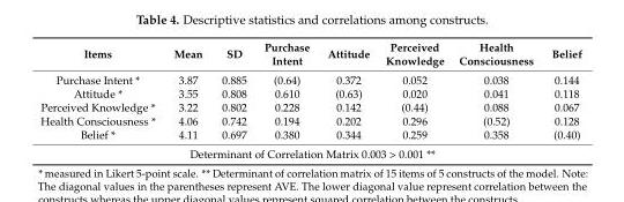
<table><thead><tr><td>Items</td><td>Mean</td><td>SD</td><td>Purchase Intent</td><td>Attitude</td><td>Perceived Knowledge</td><td>Health Consciousness</td><td>Belief</td></tr></thead><tbody><tr><td>Purchase Intent *</td><td>3.87</td><td>0.885</td><td>(0.64)</td><td>0.372</td><td>0.052</td><td>0.038</td><td>0.144</td></tr><tr><td>Attitude *</td><td>3.55</td><td>0.808</td><td>0.610</td><td>(0.63)</td><td>0.020</td><td>0.041</td><td>0.118</td></tr><tr><td>Perceived Knowledge *</td><td>3.22</td><td>0.802</td><td>0.228</td><td>0.142</td><td>(0.44)</td><td>0.088</td><td>0.067</td></tr><tr><td>Health Consciousness *</td><td>4.06</td><td>0.742</td><td>0.194</td><td>0.202</td><td>0.296</td><td>(0.52)</td><td>0.128</td></tr><tr><td>Belief *</td><td>4.11</td><td>0.697</td><td>0.380</td><td>0.344</td><td>0.259</td><td>0.358</td><td>(0.40)</td></tr><tr><td colspan="8">Determinant of Correlation Matrix 0.003 &gt; 0.001 **</td></tr></tbody></table>